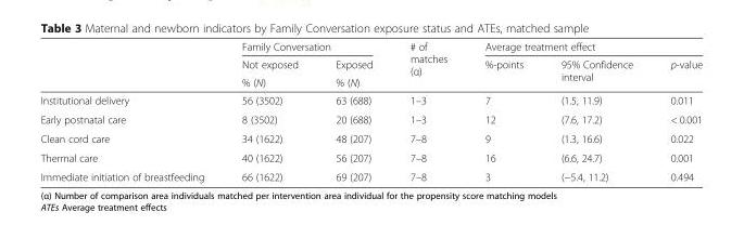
<table><thead><tr><td rowspan="3"></td><td colspan="2">Family Conversation</td><td rowspan="3"># of matches (α)</td><td colspan="3">Average treatment effect</td></tr><tr><td rowspan="2">Not exposed % (N)</td><td rowspan="2">Exposed % (N)</td><td rowspan="2">%-points</td><td rowspan="2">95% Confidence interval</td><td rowspan="2">p-value</td></tr><tr></tr></thead><tbody><tr><td>Institutional delivery</td><td>56 (3502)</td><td>63 (688)</td><td>1–3</td><td>7</td><td>(1.5, 11.9)</td><td>0.011</td></tr><tr><td>Early postnatal care</td><td>8 (3502)</td><td>20 (688)</td><td>1–3</td><td>12</td><td>(7.6, 17.2)</td><td>&lt; 0.001</td></tr><tr><td>Clean cord care</td><td>34 (1622)</td><td>48 (207)</td><td>7–8</td><td>9</td><td>(1.3, 16.6)</td><td>0.022</td></tr><tr><td>Thermal care</td><td>40 (1622)</td><td>56 (207)</td><td>7–8</td><td>16</td><td>(6.6, 24.7)</td><td>0.001</td></tr><tr><td>Immediate initiation of breastfeeding</td><td>66 (1622)</td><td>69 (207)</td><td>7–8</td><td>3</td><td>(−5.4, 11.2)</td><td>0.494</td></tr></tbody></table>